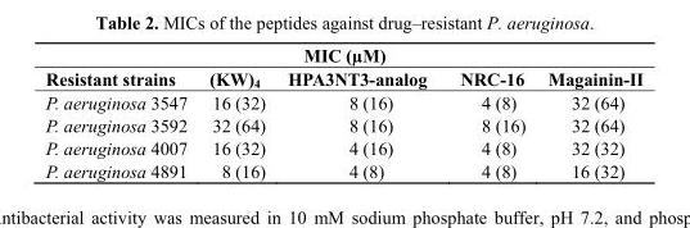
<table><thead><tr><td colspan="5">MIC (µM)</td></tr><tr><td>Resistant strains</td><td>(KW)<sub>4</sub></td><td>HPA3NT3-analog</td><td>NRC-16</td><td>Magainin-II</td></tr></thead><tbody><tr><td>P. aeruginosa 3547</td><td>16 (32)</td><td>8 (16)</td><td>4 (8)</td><td>32 (64)</td></tr><tr><td>P. aeruginosa 3592</td><td>32 (64)</td><td>8 (16)</td><td>8 (16)</td><td>32 (64)</td></tr><tr><td>P. aeruginosa 4007</td><td>16 (32)</td><td>4 (16)</td><td>4 (8)</td><td>32 (32)</td></tr><tr><td>P. aeruginosa 4891</td><td>8 (16)</td><td>4 (8)</td><td>4 (8)</td><td>16 (32)</td></tr></tbody></table>